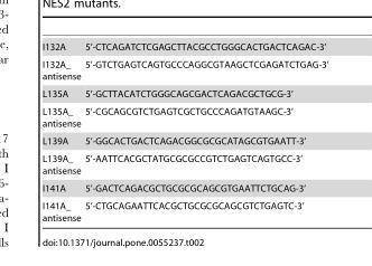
<table><tbody><tr><td>I132A</td><td>5’-CTCAGATCTCGAGCTTACGCCTGGGCACTGACTCAGAC-3’</td></tr><tr><td>I132A_ antisense</td><td>5’-GTCTGAGTCAGTGCCCAGGCGTAAGCTCGAGATCTGAG-3’</td></tr><tr><td>L135A</td><td>5’-GCTTACATCTGGGCAGCGACTCAGACGCTGCG-3’</td></tr><tr><td>L135A_ antisense</td><td>5’-CGCAGCGTCTGAGTCGCTGCCCAGATGTAAGC-3’</td></tr><tr><td>L139A</td><td>5’-GGCACTGACTCAGACGGCGCGCATAGCGTGAATT-3’</td></tr><tr><td>L139A_ antisense</td><td>5’-AATTCACGCTATGCGCGCCGTCTGAGTCAGTGCC-3’</td></tr><tr><td>I141A</td><td>5’-GACTCAGACGCTGCGCGCAGCGTGAATTCTGCAG-3’</td></tr><tr><td>I141A_ antisense</td><td>5’-CTGCAGAATTCACGCTGCGCGCAGCGTCTGAGTC-3’</td></tr></tbody></table>